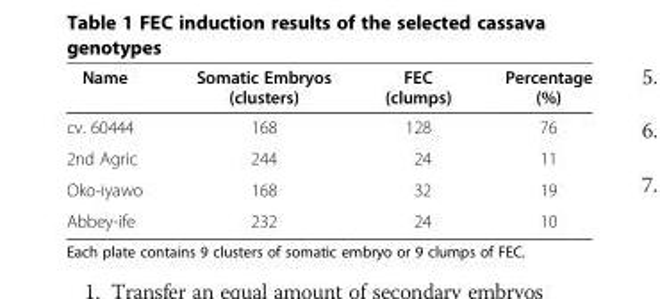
<table><thead><tr><td>Name</td><td>Somatic Embryos (clusters)</td><td>FEC (clumps)</td><td>Percentage (%)</td></tr></thead><tbody><tr><td>cv. 60444</td><td>168</td><td>128</td><td>76</td></tr><tr><td>2nd Agric</td><td>244</td><td>24</td><td>11</td></tr><tr><td>Oko-iyawo</td><td>168</td><td>32</td><td>19</td></tr><tr><td>Abbey-ife</td><td>232</td><td>24</td><td>10</td></tr></tbody></table>